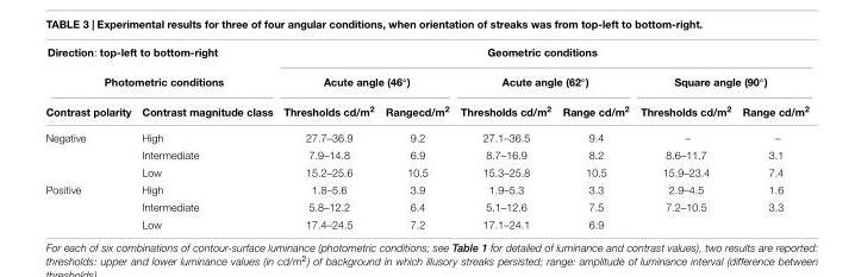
<table><thead><tr><td rowspan="2" colspan="2">Direction: top-left to bottom-right Photometric conditions</td><td colspan="6">Geometric conditions</td></tr><tr><td colspan="2">Acute angle (46◦)</td><td colspan="2">Acute angle (62◦)</td><td colspan="2">Square angle (90◦)</td></tr><tr><td>Contrast polarity</td><td>Contrast magnitude class</td><td>Thresholds cd/m<sup>2</sup></td><td>Rangecd/m<sup>2</sup></td><td>Thresholds cd/m<sup>2</sup></td><td>Range cd/m<sup>2</sup></td><td>Thresholds cd/m<sup>2</sup></td><td>Range cd/m<sup>2</sup></td></tr></thead><tbody><tr><td rowspan="3">Negative</td><td>High</td><td>27.7–36.9</td><td>9.2</td><td>27.1–36.5</td><td>9.4</td><td>–</td><td>–</td></tr><tr><td>Intermediate</td><td>7.9–14.8</td><td>6.9</td><td>8.7–16.9</td><td>8.2</td><td>8.6–11.7</td><td>3.1</td></tr><tr><td>Low</td><td>15.2–25.6</td><td>10.5</td><td>15.3–25.8</td><td>10.5</td><td>15.9–23.4</td><td>7.4</td></tr><tr><td rowspan="3">Positive</td><td>High</td><td>1.8–5.6</td><td>3.9</td><td>1.9–5.3</td><td>3.3</td><td>2.9–4.5</td><td>1.6</td></tr><tr><td>Intermediate</td><td>5.8–12.2</td><td>6.4</td><td>5.1–12.6</td><td>7.5</td><td>7.2–10.5</td><td>3.3</td></tr><tr><td>Low</td><td>17.4–24.5</td><td>7.2</td><td>17.1–24.1</td><td>6.9</td><td></td><td></td></tr></tbody></table>